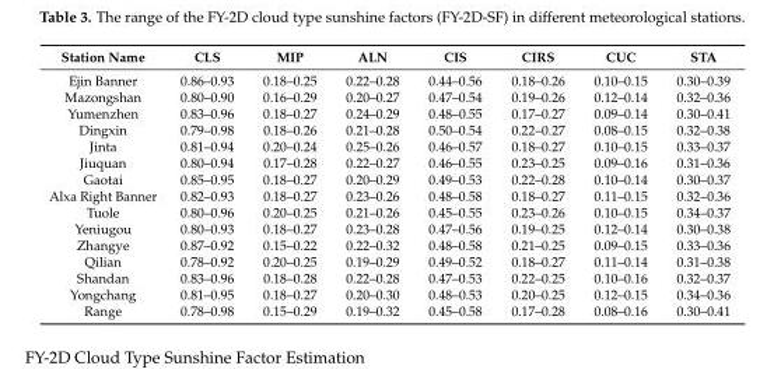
<table><thead><tr><td>Station Name</td><td>CLS</td><td>MIP</td><td>ALN</td><td>CIS</td><td>CIRS</td><td>CUC</td><td>STA</td></tr></thead><tbody><tr><td>Ejin Banner</td><td>0.86–0.93</td><td>0.18–0.25</td><td>0.22–0.28</td><td>0.44–0.56</td><td>0.18–0.26</td><td>0.10–0.15</td><td>0.30–0.39</td></tr><tr><td>Mazongshan</td><td>0.80–0.90</td><td>0.16–0.29</td><td>0.20–0.27</td><td>0.47–0.54</td><td>0.19–0.26</td><td>0.12–0.14</td><td>0.32–0.36</td></tr><tr><td>Yumenzhen</td><td>0.83–0.96</td><td>0.18–0.27</td><td>0.24–0.29</td><td>0.48–0.55</td><td>0.17–0.27</td><td>0.09–0.14</td><td>0.30–0.41</td></tr><tr><td>Dingxin</td><td>0.79–0.98</td><td>0.18–0.26</td><td>0.21–0.28</td><td>0.50–0.54</td><td>0.22–0.27</td><td>0.08–0.15</td><td>0.32–0.38</td></tr><tr><td>Jinta</td><td>0.81–0.94</td><td>0.20–0.24</td><td>0.25–0.26</td><td>0.46–0.57</td><td>0.18–0.27</td><td>0.10–0.15</td><td>0.33–0.37</td></tr><tr><td>Jiuquan</td><td>0.80–0.94</td><td>0.17–0.28</td><td>0.22–0.27</td><td>0.46–0.55</td><td>0.23–0.25</td><td>0.09–0.16</td><td>0.31–0.36</td></tr><tr><td>Gaotai</td><td>0.85–0.95</td><td>0.18–0.27</td><td>0.20–0.29</td><td>0.49–0.53</td><td>0.22–0.28</td><td>0.10–0.14</td><td>0.30–0.37</td></tr><tr><td>Alxa Right Banner</td><td>0.82–0.93</td><td>0.18–0.27</td><td>0.23–0.26</td><td>0.48–0.58</td><td>0.18–0.27</td><td>0.11–0.15</td><td>0.32–0.36</td></tr><tr><td>Tuole</td><td>0.80–0.96</td><td>0.20–0.25</td><td>0.21–0.26</td><td>0.45–0.55</td><td>0.23–0.26</td><td>0.10–0.15</td><td>0.34–0.37</td></tr><tr><td>Yeniugou</td><td>0.80–0.93</td><td>0.18–0.27</td><td>0.23–0.28</td><td>0.47–0.56</td><td>0.19–0.25</td><td>0.12–0.14</td><td>0.30–0.38</td></tr><tr><td>Zhangye</td><td>0.87–0.92</td><td>0.15–0.22</td><td>0.22–0.32</td><td>0.48–0.58</td><td>0.21–0.25</td><td>0.09–0.15</td><td>0.33–0.36</td></tr><tr><td>Qilian</td><td>0.78–0.92</td><td>0.20–0.25</td><td>0.19–0.29</td><td>0.49–0.52</td><td>0.18–0.27</td><td>0.11–0.14</td><td>0.31–0.38</td></tr><tr><td>Shandan</td><td>0.83–0.96</td><td>0.18–0.28</td><td>0.22–0.28</td><td>0.47–0.53</td><td>0.22–0.25</td><td>0.10–0.16</td><td>0.32–0.37</td></tr><tr><td>Yongchang</td><td>0.81–0.95</td><td>0.18–0.27</td><td>0.20–0.30</td><td>0.48–0.53</td><td>0.20–0.25</td><td>0.12–0.15</td><td>0.34–0.36</td></tr><tr><td>Range</td><td>0.78–0.98</td><td>0.15–0.29</td><td>0.19–0.32</td><td>0.45–0.58</td><td>0.17–0.28</td><td>0.08–0.16</td><td>0.30–0.41</td></tr></tbody></table>